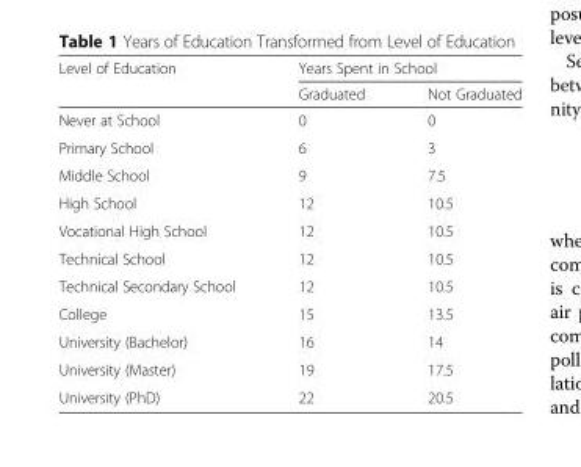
<table><thead><tr><td rowspan="2">Level of Education</td><td colspan="2">Years Spent in School</td></tr><tr><td>Graduated</td><td>Not Graduated</td></tr></thead><tbody><tr><td>Never at School</td><td>0</td><td>0</td></tr><tr><td>Primary School</td><td>6</td><td>3</td></tr><tr><td>Middle School</td><td>9</td><td>7.5</td></tr><tr><td>High School</td><td>12</td><td>10.5</td></tr><tr><td>Vocational High School</td><td>12</td><td>10.5</td></tr><tr><td>Technical School</td><td>12</td><td>10.5</td></tr><tr><td>Technical Secondary School</td><td>12</td><td>10.5</td></tr><tr><td>College</td><td>15</td><td>13.5</td></tr><tr><td>University (Bachelor)</td><td>16</td><td>14</td></tr><tr><td>University (Master)</td><td>19</td><td>17.5</td></tr><tr><td>University (PhD)</td><td>22</td><td>20.5</td></tr></tbody></table>